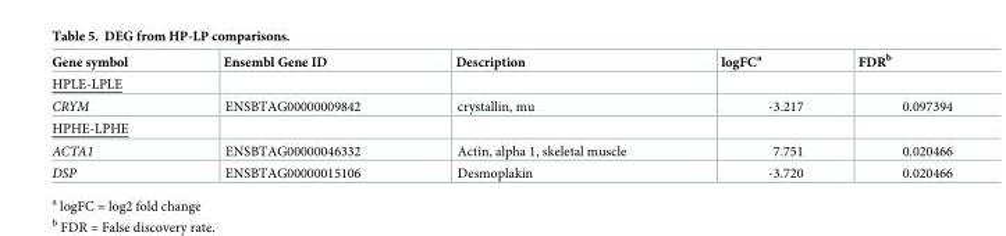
<table><thead><tr><td>Gene symbol</td><td>Ensembl Gene ID</td><td>Description</td><td>logFC<sup>a</sup></td><td>FDR<sup>b</sup></td></tr></thead><tbody><tr><td colspan="5">HPLE-LPLE</td></tr><tr><td>CRYM</td><td>ENSBTAG00000009842</td><td>crystallin, mu</td><td>-3.217</td><td>0.097394</td></tr><tr><td colspan="5">HPHE-LPHE</td></tr><tr><td>ACTA1</td><td>ENSBTAG00000046332</td><td>Actin, alpha 1, skeletal muscle</td><td>7.751</td><td>0.020466</td></tr><tr><td>DSP</td><td>ENSBTAG00000015106</td><td>Desmoplakin</td><td>-3.720</td><td>0.020466</td></tr></tbody></table>